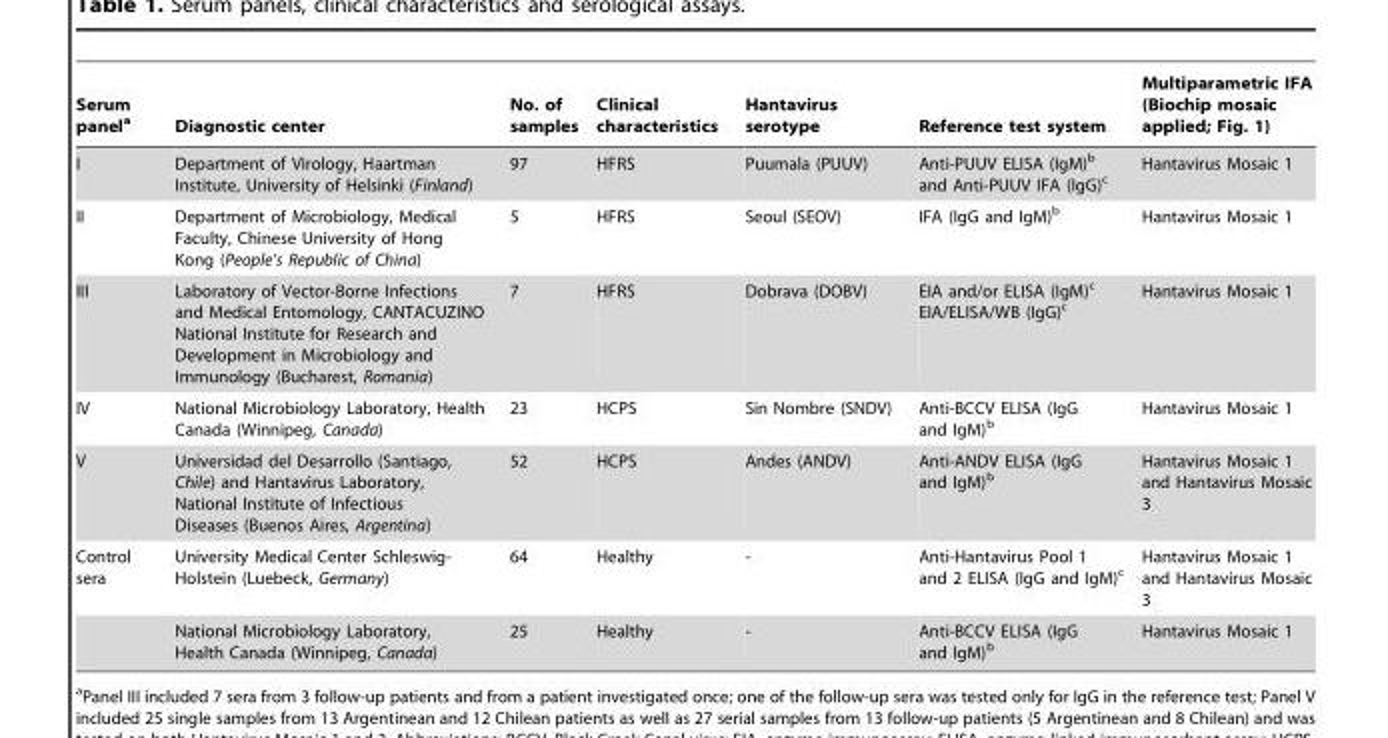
<table><thead><tr><td>Serum panel<sup>a</sup></td><td>Diagnostic center</td><td>No. of samples</td><td>Clinical characteristics</td><td>Hantavirus serotype</td><td>Reference test system</td><td>Multiparametric IFA (Biochip mosaic applied; Fig. 1)</td></tr></thead><tbody><tr><td>I</td><td>Department of Virology, Haartman Institute, University of Helsinki (Finland)</td><td>97</td><td>HFRS</td><td>Puumala (PUUV)</td><td>Anti-PUUV ELISA (IgM)<sup>b</sup> and Anti-PUUV IFA (IgG)<sup>c</sup></td><td>Hantavirus Mosaic 1</td></tr><tr><td>II</td><td>Department of Microbiology, Medical Faculty, Chinese University of Hong Kong (People’s Republic of China)</td><td>5</td><td>HFRS</td><td>Seoul (SEOV)</td><td>IFA (IgG and IgM)<sup>b</sup></td><td>Hantavirus Mosaic 1</td></tr><tr><td>III</td><td>Laboratory of Vector-Borne Infections and Medical Entomology, CANTACUZINO National Institute for Research and Development in Microbiology and Immunology (Bucharest, Romania)</td><td>7</td><td>HFRS</td><td>Dobrava (DOBV)</td><td>EIA and/or ELISA (IgM)<sup>c</sup> EIA/ELISA/WB (IgG)<sup>c</sup></td><td>Hantavirus Mosaic 1</td></tr><tr><td>IV</td><td>National Microbiology Laboratory, Health Canada (Winnipeg, Canada)</td><td>23</td><td>HCPS</td><td>Sin Nombre (SNDV)</td><td>Anti-BCCV ELISA (IgG and IgM)<sup>b</sup></td><td>Hantavirus Mosaic 1</td></tr><tr><td>V</td><td>Universidad del Desarrollo (Santiago, Chile) and Hantavirus Laboratory, National Institute of Infectious Diseases (Buenos Aires, Argentina)</td><td>52</td><td>HCPS</td><td>Andes (ANDV)</td><td>Anti-ANDV ELISA (IgG and IgM)<sup>b</sup></td><td>Hantavirus Mosaic 1 and Hantavirus Mosaic 3</td></tr><tr><td rowspan="2">Control sera</td><td>University Medical Center Schleswig- Holstein (Luebeck, Germany)</td><td>64</td><td>Healthy</td><td>-</td><td>Anti-Hantavirus Pool 1 and 2 ELISA (IgG and IgM)<sup>c</sup></td><td>Hantavirus Mosaic 1 and Hantavirus Mosaic 3</td></tr><tr><td>National Microbiology Laboratory, Health Canada (Winnipeg, Canada)</td><td>25</td><td>Healthy</td><td>-</td><td>Anti-BCCV ELISA (IgG and IgM)<sup>b</sup></td><td>Hantavirus Mosaic 1</td></tr></tbody></table>